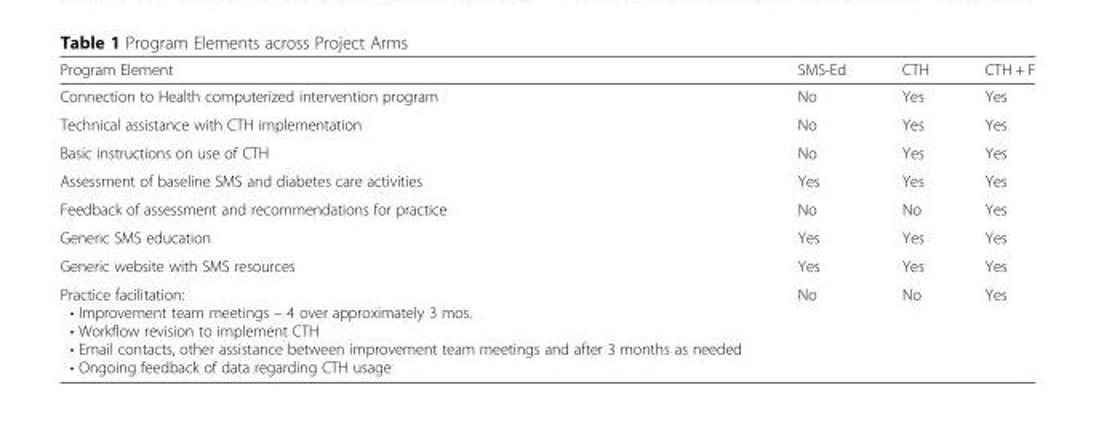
<table><thead><tr><td>Program Element</td><td>SMS-Ed</td><td>CTH</td><td>CTH + F</td></tr></thead><tbody><tr><td>Connection to Health computerized intervention program</td><td>No</td><td>Yes</td><td>Yes</td></tr><tr><td>Technical assistance with CTH implementation</td><td>No</td><td>Yes</td><td>Yes</td></tr><tr><td>Basic instructions on use of CTH</td><td>No</td><td>Yes</td><td>Yes</td></tr><tr><td>Assessment of baseline SMS and diabetes care activities</td><td>Yes</td><td>Yes</td><td>Yes</td></tr><tr><td>Feedback of assessment and recommendations for practice</td><td>No</td><td>No</td><td>Yes</td></tr><tr><td>Generic SMS education</td><td>Yes</td><td>Yes</td><td>Yes</td></tr><tr><td>Generic website with SMS resources</td><td>Yes</td><td>Yes</td><td>Yes</td></tr><tr><td>Practice facilitation: • Improvement team meetings – 4 over approximately 3 mos. • Workflow revision to implement CTH • Email contacts, other assistance between improvement team meetings and after 3 months as needed • Ongoing feedback of data regarding CTH usage</td><td>No</td><td>No</td><td>Yes</td></tr></tbody></table>